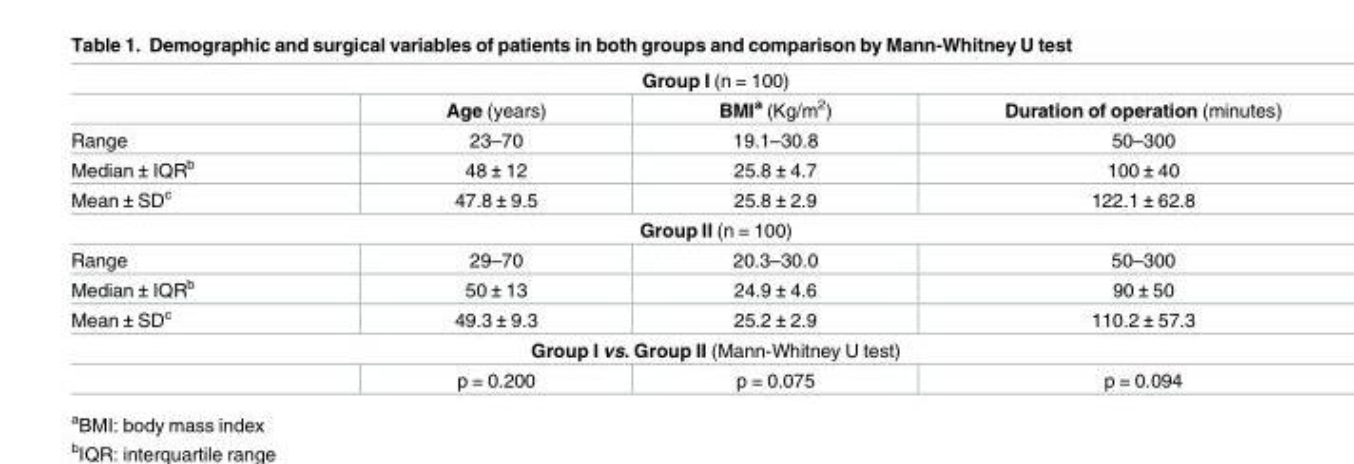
<table><tbody><tr><td colspan="4">Group I (n = 100)</td></tr><tr><td></td><td>Age (years)</td><td>BMI<sup>a</sup> (Kg/m<sup>2</sup>)</td><td>Duration of operation (minutes)</td></tr><tr><td>Range</td><td>23–70</td><td>19.1–30.8</td><td>50–300</td></tr><tr><td>Median ± IQR<sup>b</sup></td><td>48 ± 12</td><td>25.8 ± 4.7</td><td>100 ± 40</td></tr><tr><td>Mean ± SD<sup>c</sup></td><td>47.8 ± 9.5</td><td>25.8 ± 2.9</td><td>122.1 ± 62.8</td></tr><tr><td colspan="4">Group II (n = 100)</td></tr><tr><td>Range</td><td>29–70</td><td>20.3–30.0</td><td>50–300</td></tr><tr><td>Median ± IQR<sup>b</sup></td><td>50 ± 13</td><td>24.9 ± 4.6</td><td>90 ± 50</td></tr><tr><td>Mean ± SD<sup>c</sup></td><td>49.3 ± 9.3</td><td>25.2 ± 2.9</td><td>110.2 ± 57.3</td></tr><tr><td colspan="4">Group I vs. Group II (Mann-Whitney U test)</td></tr><tr><td></td><td>p = 0.200</td><td>p = 0.075</td><td>p = 0.094</td></tr></tbody></table>